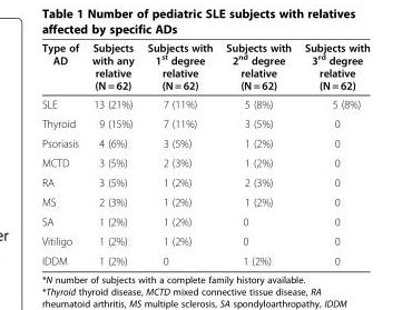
<table><thead><tr><td>Type of AD</td><td>Subjects with any relative (N = 62)</td><td>Subjects with 1<sup>st</sup> degree relative (N = 62)</td><td>Subjects with 2<sup>nd</sup> degree relative (N = 62)</td><td>Subjects with 3<sup>rd</sup> degree relative (N = 62)</td></tr></thead><tbody><tr><td>SLE</td><td>13 (21%)</td><td>7 (11%)</td><td>5 (8%)</td><td>5 (8%)</td></tr><tr><td>Thyroid</td><td>9 (15%)</td><td>7 (11%)</td><td>3 (5%)</td><td>0</td></tr><tr><td>Psoriasis</td><td>4 (6%)</td><td>3 (5%)</td><td>1 (2%)</td><td>0</td></tr><tr><td>MCTD</td><td>3 (5%)</td><td>2 (3%)</td><td>1 (2%)</td><td>0</td></tr><tr><td>RA</td><td>3 (5%)</td><td>1 (2%)</td><td>2 (3%)</td><td>0</td></tr><tr><td>MS</td><td>2 (3%)</td><td>1 (2%)</td><td>1 (2%)</td><td>0</td></tr><tr><td>SA</td><td>1 (2%)</td><td>1 (2%)</td><td>0</td><td>0</td></tr><tr><td>Vitiligo</td><td>1 (2%)</td><td>1 (2%)</td><td>0</td><td>0</td></tr><tr><td>IDDM</td><td>1 (2%)</td><td>0</td><td>1 (2%)</td><td>0</td></tr></tbody></table>